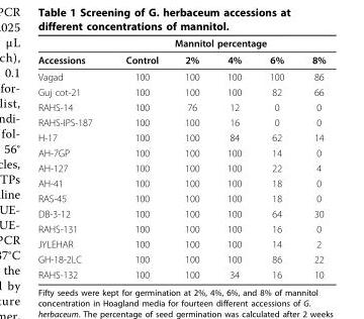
<table><thead><tr><td rowspan="2">Accessions</td><td rowspan="2">Control</td><td colspan="4">Mannitol percentage</td></tr><tr><td>2%</td><td>4%</td><td>6%</td><td>8%</td></tr></thead><tbody><tr><td>Vagad</td><td>100</td><td>100</td><td>100</td><td>100</td><td>86</td></tr><tr><td>Guj cot-21</td><td>100</td><td>100</td><td>100</td><td>82</td><td>66</td></tr><tr><td>RAHS-14</td><td>100</td><td>76</td><td>12</td><td>0</td><td>0</td></tr><tr><td>RAHS-IPS-187</td><td>100</td><td>100</td><td>16</td><td>0</td><td>0</td></tr><tr><td>H-17</td><td>100</td><td>100</td><td>84</td><td>62</td><td>14</td></tr><tr><td>AH-7GP</td><td>100</td><td>100</td><td>100</td><td>14</td><td>0</td></tr><tr><td>AH-127</td><td>100</td><td>100</td><td>100</td><td>22</td><td>4</td></tr><tr><td>AH-41</td><td>100</td><td>100</td><td>100</td><td>18</td><td>0</td></tr><tr><td>RAS-45</td><td>100</td><td>100</td><td>100</td><td>18</td><td>0</td></tr><tr><td>DB-3-12</td><td>100</td><td>100</td><td>100</td><td>64</td><td>30</td></tr><tr><td>RAHS-131</td><td>100</td><td>100</td><td>100</td><td>16</td><td>0</td></tr><tr><td>JYLEHAR</td><td>100</td><td>100</td><td>100</td><td>14</td><td>2</td></tr><tr><td>GH-18-2LC</td><td>100</td><td>100</td><td>100</td><td>86</td><td>22</td></tr><tr><td>RAHS-132</td><td>100</td><td>100</td><td>34</td><td>16</td><td>10</td></tr></tbody></table>